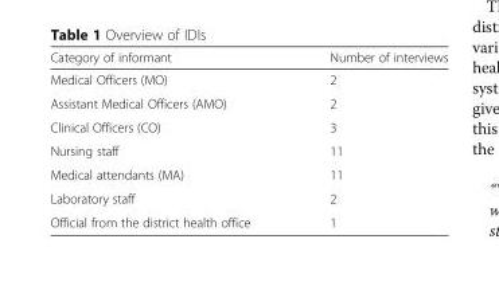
<table><thead><tr><td>Category of informant</td><td>Number of interviews</td></tr></thead><tbody><tr><td>Medical Officers (MO)</td><td>2</td></tr><tr><td>Assistant Medical Officers (AMO)</td><td>2</td></tr><tr><td>Clinical Officers (CO)</td><td>3</td></tr><tr><td>Nursing staff</td><td>11</td></tr><tr><td>Medical attendants (MA)</td><td>11</td></tr><tr><td>Laboratory staff</td><td>2</td></tr><tr><td>Official from the district health office</td><td>1</td></tr></tbody></table>